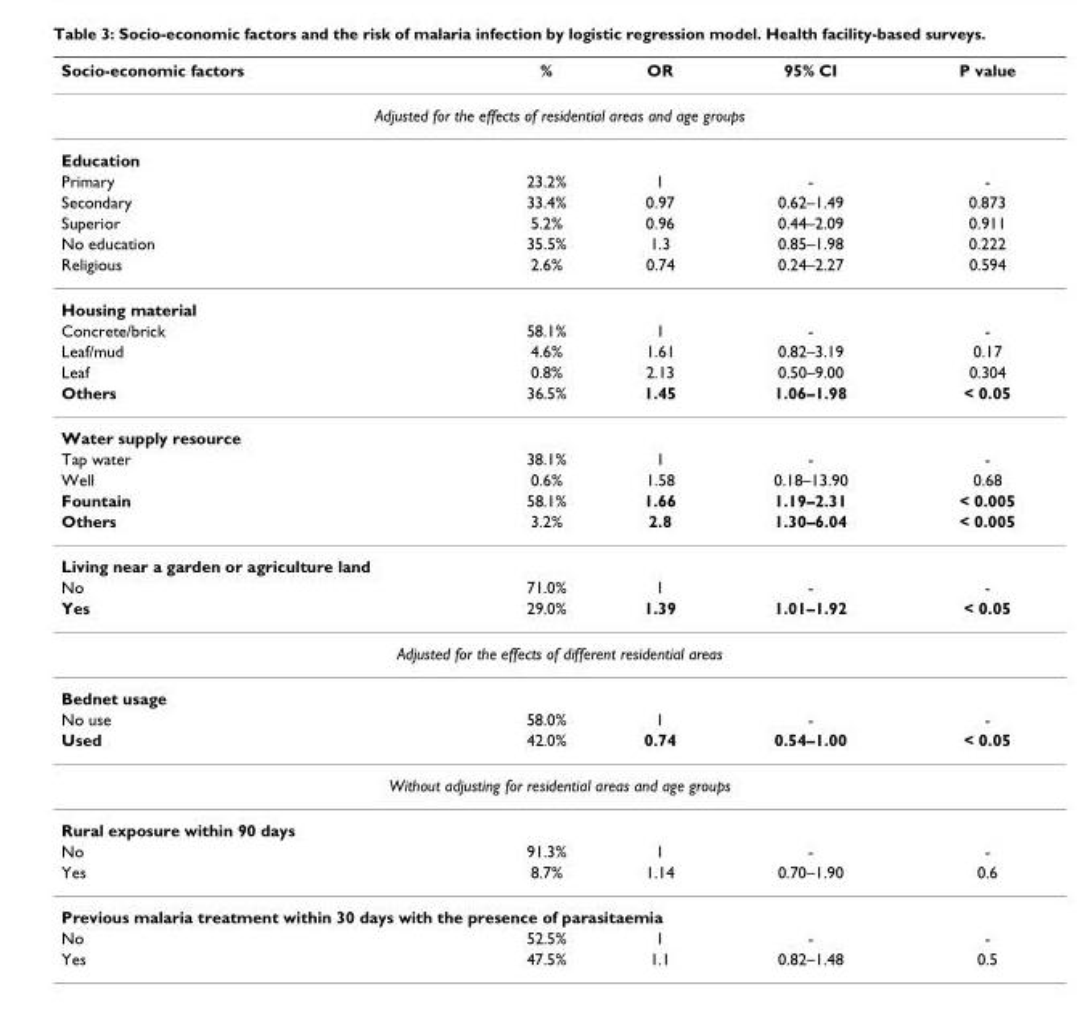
<table><thead><tr><td>Socio-economic factors</td><td>%</td><td>OR</td><td>95% CI</td><td>P value</td></tr></thead><tbody><tr><td colspan="5">Adjusted for the effects of residential areas and age groups</td></tr><tr><td colspan="5">Education</td></tr><tr><td>Primary</td><td>23.2%</td><td>1</td><td>-</td><td>-</td></tr><tr><td>Secondary</td><td>33.4%</td><td>0.97</td><td>0.62–1.49</td><td>0.873</td></tr><tr><td>Superior</td><td>5.2%</td><td>0.96</td><td>0.44–2.09</td><td>0.911</td></tr><tr><td>No education</td><td>35.5%</td><td>1.3</td><td>0.85–1.98</td><td>0.222</td></tr><tr><td>Religious</td><td>2.6%</td><td>0.74</td><td>0.24–2.27</td><td>0.594</td></tr><tr><td colspan="5">Housing material</td></tr><tr><td>Concrete/brick</td><td>58.1%</td><td>1</td><td>-</td><td>-</td></tr><tr><td>Leaf/mud</td><td>4.6%</td><td>1.61</td><td>0.82–3.19</td><td>0.17</td></tr><tr><td>Leaf</td><td>0.8%</td><td>2.13</td><td>0.50–9.00</td><td>0.304</td></tr><tr><td>Others</td><td>36.5%</td><td>1.45</td><td>1.06–1.98</td><td>&lt; 0.05</td></tr><tr><td colspan="5">Water supply resource</td></tr><tr><td>Tap water</td><td>38.1%</td><td>1</td><td>-</td><td>-</td></tr><tr><td>Well</td><td>0.6%</td><td>1.58</td><td>0.18–13.90</td><td>0.68</td></tr><tr><td>Fountain</td><td>58.1%</td><td>1.66</td><td>1.19–2.31</td><td>&lt; 0.005</td></tr><tr><td>Others</td><td>3.2%</td><td>2.8</td><td>1.30–6.04</td><td>&lt; 0.005</td></tr><tr><td colspan="5">Living near a garden or agriculture land</td></tr><tr><td>No</td><td>71.0%</td><td>1</td><td>-</td><td>-</td></tr><tr><td>Yes</td><td>29.0%</td><td>1.39</td><td>1.01–1.92</td><td>&lt; 0.05</td></tr><tr><td colspan="5">Adjusted for the effects of different residential areas</td></tr><tr><td colspan="5">Bednet usage</td></tr><tr><td>No use</td><td>58.0%</td><td>1</td><td>-</td><td>-</td></tr><tr><td>Used</td><td>42.0%</td><td>0.74</td><td>0.54–1.00</td><td>&lt; 0.05</td></tr><tr><td colspan="5">Without adjusting for residential areas and age groups</td></tr><tr><td colspan="5">Rural exposure within 90 days</td></tr><tr><td>No</td><td>91.3%</td><td>1</td><td>-</td><td>-</td></tr><tr><td>Yes</td><td>8.7%</td><td>1.14</td><td>0.70–1.90</td><td>0.6</td></tr><tr><td colspan="5">Previous malaria treatment within 30 days with the presence of parasitaemia</td></tr><tr><td>No</td><td>52.5%</td><td>1</td><td>-</td><td>-</td></tr><tr><td>Yes</td><td>47.5%</td><td>1.1</td><td>0.82–1.48</td><td>0.5</td></tr></tbody></table>